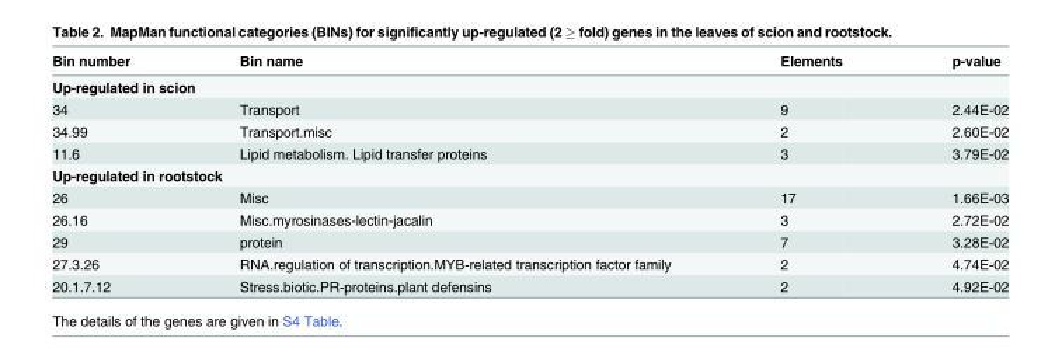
<table><thead><tr><td>Bin number</td><td>Bin name</td><td>Elements</td><td>p-value</td></tr></thead><tbody><tr><td colspan="4">Up-regulated in scion</td></tr><tr><td>34</td><td>Transport</td><td>9</td><td>2.44E-02</td></tr><tr><td>34.99</td><td>Transport.misc</td><td>2</td><td>2.60E-02</td></tr><tr><td>11.6</td><td>Lipid metabolism. Lipid transfer proteins</td><td>3</td><td>3.79E-02</td></tr><tr><td colspan="4">Up-regulated in rootstock</td></tr><tr><td>26</td><td>Misc</td><td>17</td><td>1.66E-03</td></tr><tr><td>26.16</td><td>Misc.myrosinases-lectin-jacalin</td><td>3</td><td>2.72E-02</td></tr><tr><td>29</td><td>protein</td><td>7</td><td>3.28E-02</td></tr><tr><td>27.3.26</td><td>RNA.regulation of transcription.MYB-related transcription factor family</td><td>2</td><td>4.74E-02</td></tr><tr><td>20.1.7.12</td><td>Stress.biotic.PR-proteins.plant defensins</td><td>2</td><td>4.92E-02</td></tr></tbody></table>